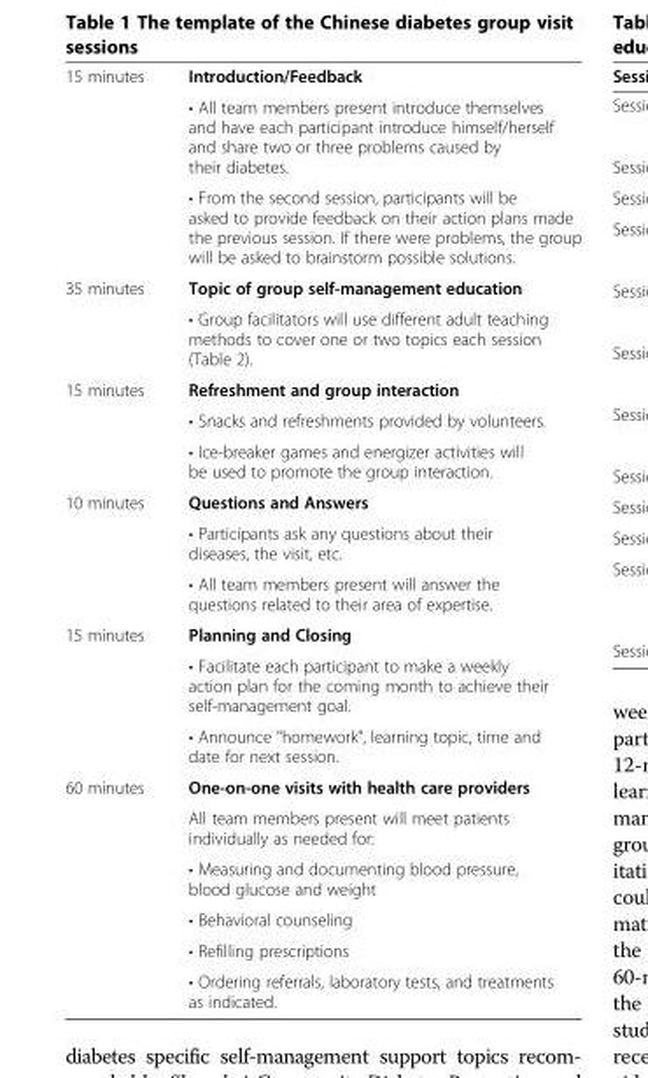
<table><tbody><tr><td rowspan="3">15 minutes</td><td>Introduction/Feedback</td></tr><tr><td>• All team members present introduce themselves and have each participant introduce himself/herself and share two or three problems caused by their diabetes.</td></tr><tr><td>• From the second session, participants will be asked to provide feedback on their action plans made the previous session. If there were problems, the group will be asked to brainstorm possible solutions.</td></tr><tr><td rowspan="2">35 minutes</td><td>Topic of group self-management education</td></tr><tr><td>• Group facilitators will use different adult teaching methods to cover one or two topics each session (Table 2).</td></tr><tr><td rowspan="3">15 minutes</td><td>Refreshment and group interaction</td></tr><tr><td>• Snacks and refreshments provided by volunteers.</td></tr><tr><td>• Ice-breaker games and energizer activities will be used to promote the group interaction.</td></tr><tr><td rowspan="3">10 minutes</td><td>Questions and Answers</td></tr><tr><td>• Participants ask any questions about their diseases, the visit, etc.</td></tr><tr><td>• All team members present will answer the questions related to their area of expertise.</td></tr><tr><td rowspan="3">15 minutes</td><td>Planning and Closing</td></tr><tr><td>• Facilitate each participant to make a weekly action plan for the coming month to achieve their self-management goal.</td></tr><tr><td>• Announce &quot;homework&quot;, learning topic, time and date for next session.</td></tr><tr><td rowspan="6">60 minutes</td><td>One-on-one visits with health care providers</td></tr><tr><td>All team members present will meet patients individually as needed for:</td></tr><tr><td>• Measuring and documenting blood pressure, blood glucose and weight</td></tr><tr><td>• Behavioral counseling</td></tr><tr><td>• Refilling prescriptions</td></tr><tr><td>• Ordering referrals, laboratory tests, and treatments as indicated.</td></tr></tbody></table>